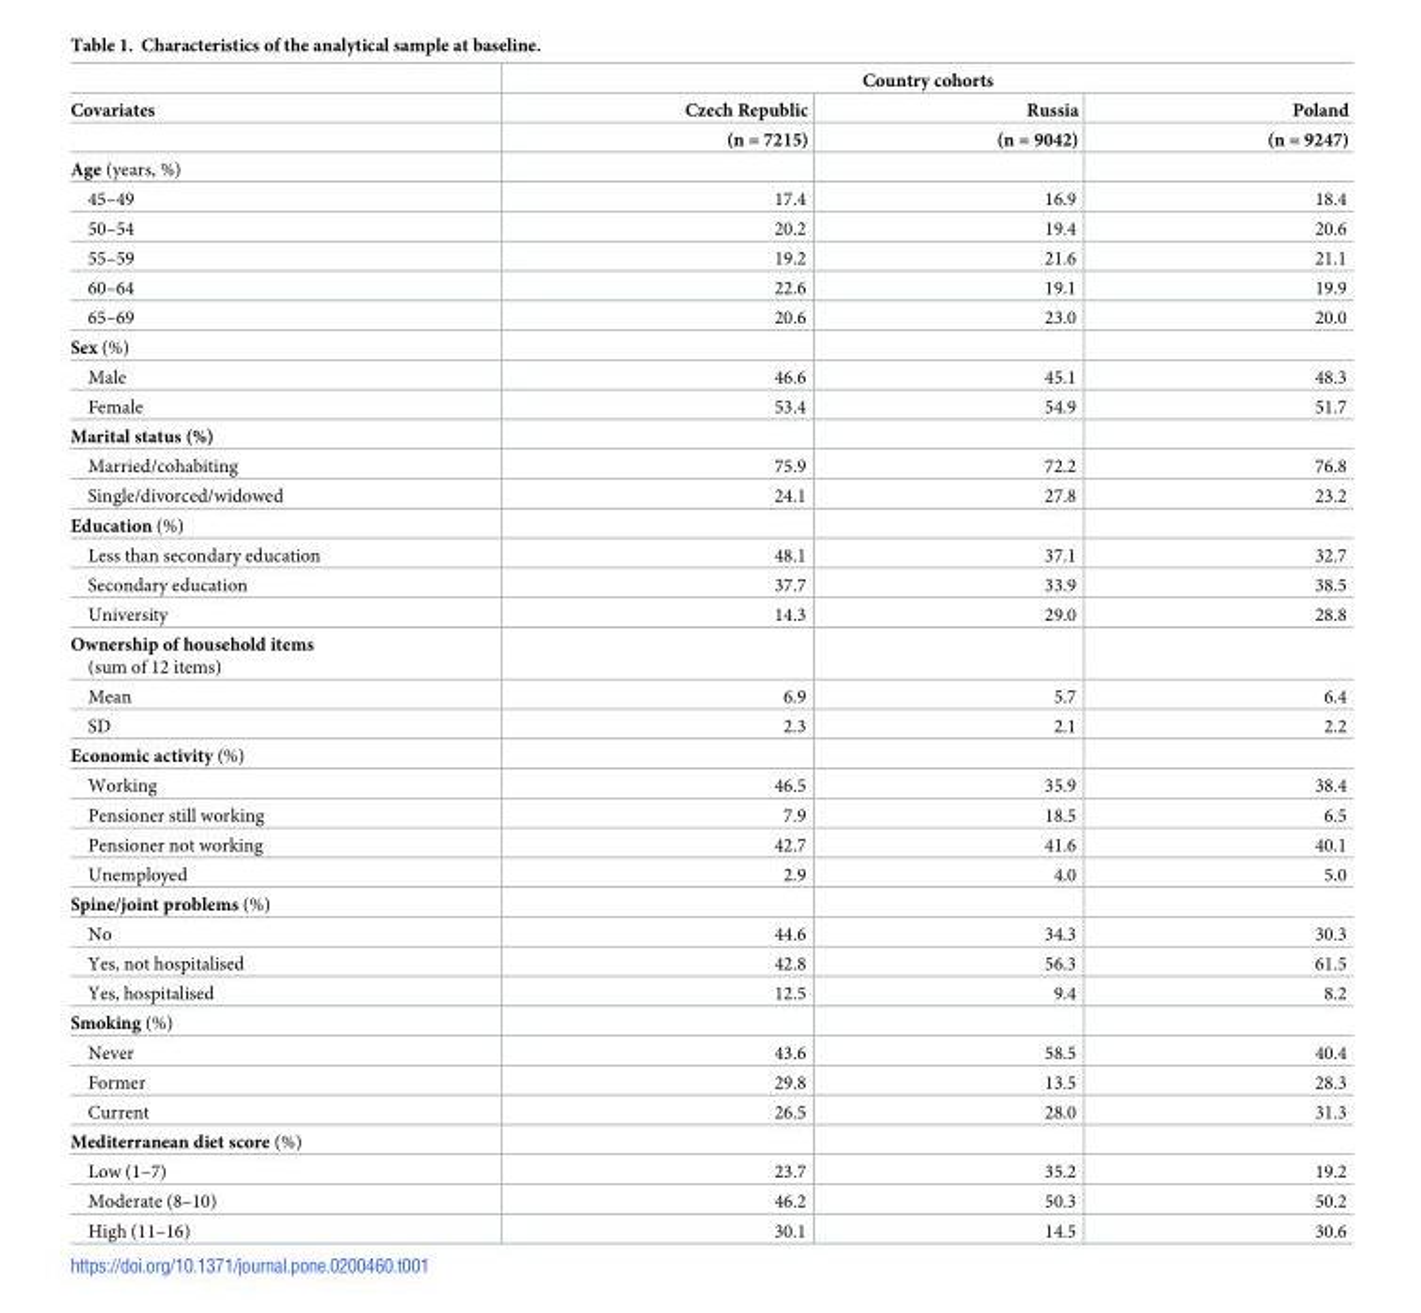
<table><thead><tr><td rowspan="3">Covariates</td><td colspan="3">Country cohorts</td></tr><tr><td rowspan="2">Czech Republic (n = 7215)</td><td rowspan="2">Russia (n = 9042)</td><td rowspan="2">Poland (n = 9247)</td></tr><tr></tr></thead><tbody><tr><td colspan="4">Age (years, %)</td></tr><tr><td>45–49</td><td>17.4</td><td>16.9</td><td>18.4</td></tr><tr><td>50–54</td><td>20.2</td><td>19.4</td><td>20.6</td></tr><tr><td>55–59</td><td>19.2</td><td>21.6</td><td>21.1</td></tr><tr><td>60–64</td><td>22.6</td><td>19.1</td><td>19.9</td></tr><tr><td>65–69</td><td>20.6</td><td>23.0</td><td>20.0</td></tr><tr><td colspan="4">Sex (%)</td></tr><tr><td>Male</td><td>46.6</td><td>45.1</td><td>48.3</td></tr><tr><td>Female</td><td>53.4</td><td>54.9</td><td>51.7</td></tr><tr><td colspan="4">Marital status (%)</td></tr><tr><td>Married/cohabiting</td><td>75.9</td><td>72.2</td><td>76.8</td></tr><tr><td>Single/divorced/widowed</td><td>24.1</td><td>27.8</td><td>23.2</td></tr><tr><td colspan="4">Education (%)</td></tr><tr><td>Less than secondary education</td><td>48.1</td><td>37.1</td><td>32.7</td></tr><tr><td>Secondary education</td><td>37.7</td><td>33.9</td><td>38.5</td></tr><tr><td>University</td><td>14.3</td><td>29.0</td><td>28.8</td></tr><tr><td colspan="4">Ownership of household items (sum of 12 items)</td></tr><tr><td>Mean</td><td>6.9</td><td>5.7</td><td>6.4</td></tr><tr><td>SD</td><td>2.3</td><td>2.1</td><td>2.2</td></tr><tr><td colspan="4">Economic activity (%)</td></tr><tr><td>Working</td><td>46.5</td><td>35.9</td><td>38.4</td></tr><tr><td>Pensioner still working</td><td>7.9</td><td>18.5</td><td>6.5</td></tr><tr><td>Pensioner not working</td><td>42.7</td><td>41.6</td><td>40.1</td></tr><tr><td>Unemployed</td><td>2.9</td><td>4.0</td><td>5.0</td></tr><tr><td colspan="4">Spine/joint problems (%)</td></tr><tr><td>No</td><td>44.6</td><td>34.3</td><td>30.3</td></tr><tr><td>Yes, not hospitalised</td><td>42.8</td><td>56.3</td><td>61.5</td></tr><tr><td>Yes, hospitalised</td><td>12.5</td><td>9.4</td><td>8.2</td></tr><tr><td colspan="4">Smoking (%)</td></tr><tr><td>Never</td><td>43.6</td><td>58.5</td><td>40.4</td></tr><tr><td>Former</td><td>29.8</td><td>13.5</td><td>28.3</td></tr><tr><td>Current</td><td>26.5</td><td>28.0</td><td>31.3</td></tr><tr><td colspan="4">Mediterranean diet score (%)</td></tr><tr><td>Low (1–7)</td><td>23.7</td><td>35.2</td><td>19.2</td></tr><tr><td>Moderate (8–10)</td><td>46.2</td><td>50.3</td><td>50.2</td></tr><tr><td>High (11–16)</td><td>30.1</td><td>14.5</td><td>30.6</td></tr></tbody></table>